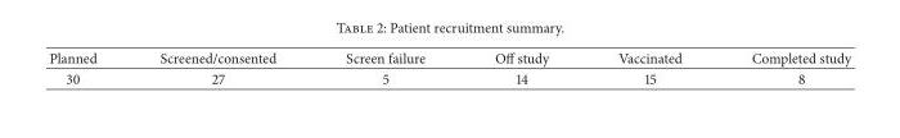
<table><thead><tr><td>Planned</td><td>Screened/consented</td><td>Screen failure</td><td>Off study</td><td>Vaccinated</td><td>Completed study</td></tr></thead><tbody><tr><td>30</td><td>27</td><td>5</td><td>14</td><td>15</td><td>8</td></tr></tbody></table>